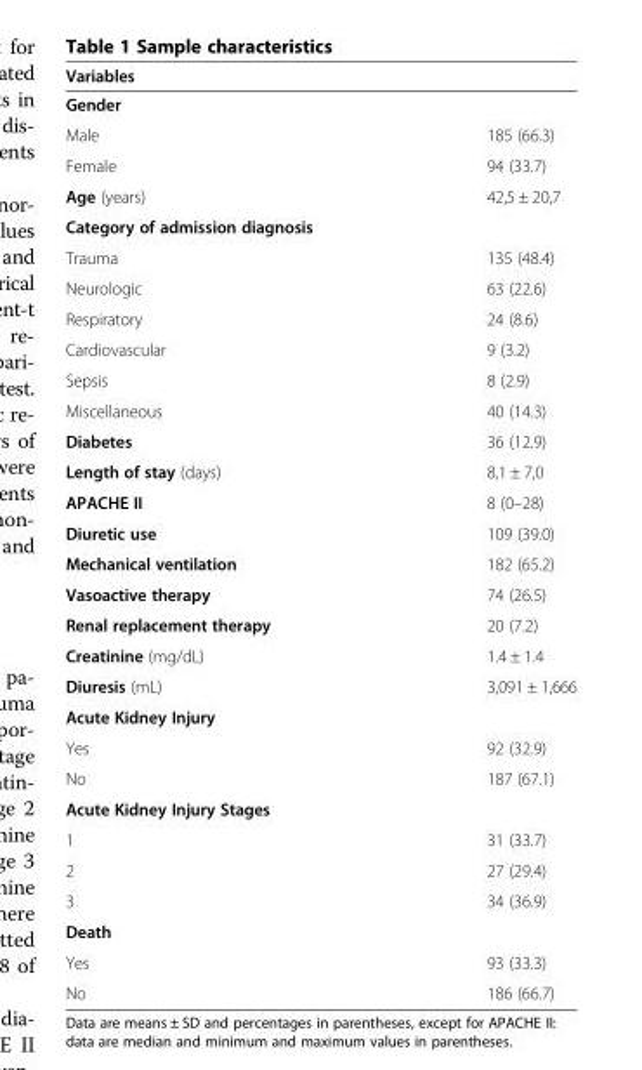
<table><thead><tr><td>Variables</td><td></td></tr></thead><tbody><tr><td colspan="2">Gender</td></tr><tr><td>Male</td><td>185 (66.3)</td></tr><tr><td>Female</td><td>94 (33.7)</td></tr><tr><td>Age (years)</td><td>42,5 ± 20,7</td></tr><tr><td colspan="2">Category of admission diagnosis</td></tr><tr><td>Trauma</td><td>135 (48.4)</td></tr><tr><td>Neurologic</td><td>63 (22.6)</td></tr><tr><td>Respiratory</td><td>24 (8.6)</td></tr><tr><td>Cardiovascular</td><td>9 (3.2)</td></tr><tr><td>Sepsis</td><td>8 (2.9)</td></tr><tr><td>Miscellaneous</td><td>40 (14.3)</td></tr><tr><td>Diabetes</td><td>36 (12.9)</td></tr><tr><td>Length of stay (days)</td><td>8,1 ± 7,0</td></tr><tr><td>APACHE II</td><td>8 (0–28)</td></tr><tr><td>Diuretic use</td><td>109 (39.0)</td></tr><tr><td>Mechanical ventilation</td><td>182 (65.2)</td></tr><tr><td>Vasoactive therapy</td><td>74 (26.5)</td></tr><tr><td>Renal replacement therapy</td><td>20 (7.2)</td></tr><tr><td>Creatinine (mg/dL)</td><td>1.4 ± 1.4</td></tr><tr><td>Diuresis (mL)</td><td>3,091 ± 1,666</td></tr><tr><td colspan="2">Acute Kidney Injury</td></tr><tr><td>Yes</td><td>92 (32.9)</td></tr><tr><td>No</td><td>187 (67.1)</td></tr><tr><td colspan="2">Acute Kidney Injury Stages</td></tr><tr><td>1</td><td>31 (33.7)</td></tr><tr><td>2</td><td>27 (29.4)</td></tr><tr><td>3</td><td>34 (36.9)</td></tr><tr><td colspan="2">Death</td></tr><tr><td>Yes</td><td>93 (33.3)</td></tr><tr><td>No</td><td>186 (66.7)</td></tr></tbody></table>